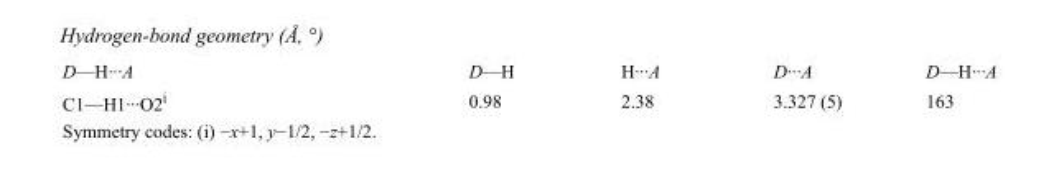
<table><tbody><tr><td>D—H···A</td><td>D—H</td><td>H···A</td><td>D···A</td><td>D—H···A</td></tr><tr><td>C1—H1···O2<sup>i</sup></td><td>0.98</td><td>2.38</td><td>3.327 (5)</td><td>163</td></tr></tbody></table>